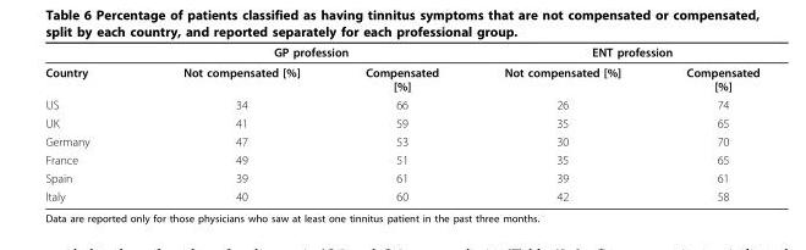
<table><thead><tr><td rowspan="2">Country</td><td colspan="2">GP profession</td><td colspan="2">ENT profession</td></tr><tr><td>Not compensated [%]</td><td>Compensated [%]</td><td>Not compensated [%]</td><td>Compensated [%]</td></tr></thead><tbody><tr><td>US</td><td>34</td><td>66</td><td>26</td><td>74</td></tr><tr><td>UK</td><td>41</td><td>59</td><td>35</td><td>65</td></tr><tr><td>Germany</td><td>47</td><td>53</td><td>30</td><td>70</td></tr><tr><td>France</td><td>49</td><td>51</td><td>35</td><td>65</td></tr><tr><td>Spain</td><td>39</td><td>61</td><td>39</td><td>61</td></tr><tr><td>Italy</td><td>40</td><td>60</td><td>42</td><td>58</td></tr></tbody></table>